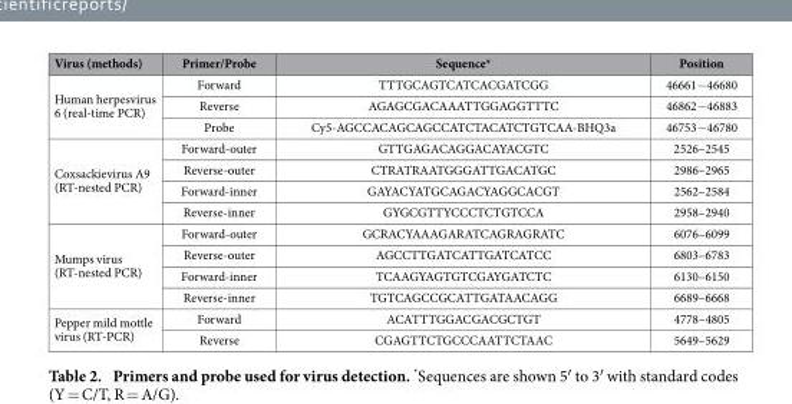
<table><thead><tr><td>Virus (methods)</td><td>Primer/Probe</td><td>Sequence*</td><td>Position</td></tr></thead><tbody><tr><td rowspan="3">Human herpesvirus 6 (real-time PCR)</td><td>Forward</td><td>TTTGCAGTCATCACGATCGG</td><td>46661− 46680</td></tr><tr><td>Reverse</td><td>AGAGCGACAAATTGGAGGTTTC</td><td>46862− 46883</td></tr><tr><td>Probe</td><td>Cy5-AGCCACAGCAGCCATCTACATCTGTCAA-BHQ3a</td><td>46753− 46780</td></tr><tr><td rowspan="4">Coxsackievirus A9 (RT-nested PCR)</td><td>Forward-outer</td><td>GTTGAGACAGGACAYACGTC</td><td>2526–2545</td></tr><tr><td>Reverse-outer</td><td>CTRATRAATGGGATTGACATGC</td><td>2986–2965</td></tr><tr><td>Forward-inner</td><td>GAYACYATGCAGACYAGGCACGT</td><td>2562–2584</td></tr><tr><td>Reverse-inner</td><td>GYGCGTTYCCCTCTGTCCA</td><td>2958–2940</td></tr><tr><td rowspan="4">Mumps virus (RT-nested PCR)</td><td>Forward-outer</td><td>GCRACYAAAGARATCAGRAGRATC</td><td>6076–6099</td></tr><tr><td>Reverse-outer</td><td>AGCCTTGATCATTGATCATCC</td><td>6803–6783</td></tr><tr><td>Forward-inner</td><td>TCAAGYAGTGTCGAYGATCTC</td><td>6130–6150</td></tr><tr><td>Reverse-inner</td><td>TGTCAGCCGCATTGATAACAGG</td><td>6689–6668</td></tr><tr><td rowspan="2">Pepper mild mottle virus (RT-PCR)</td><td>Forward</td><td>ACATTTGGACGACGCTGT</td><td>4778–4805</td></tr><tr><td>Reverse</td><td>CGAGTTCTGCCCAATTCTAAC</td><td>5649–5629</td></tr></tbody></table>